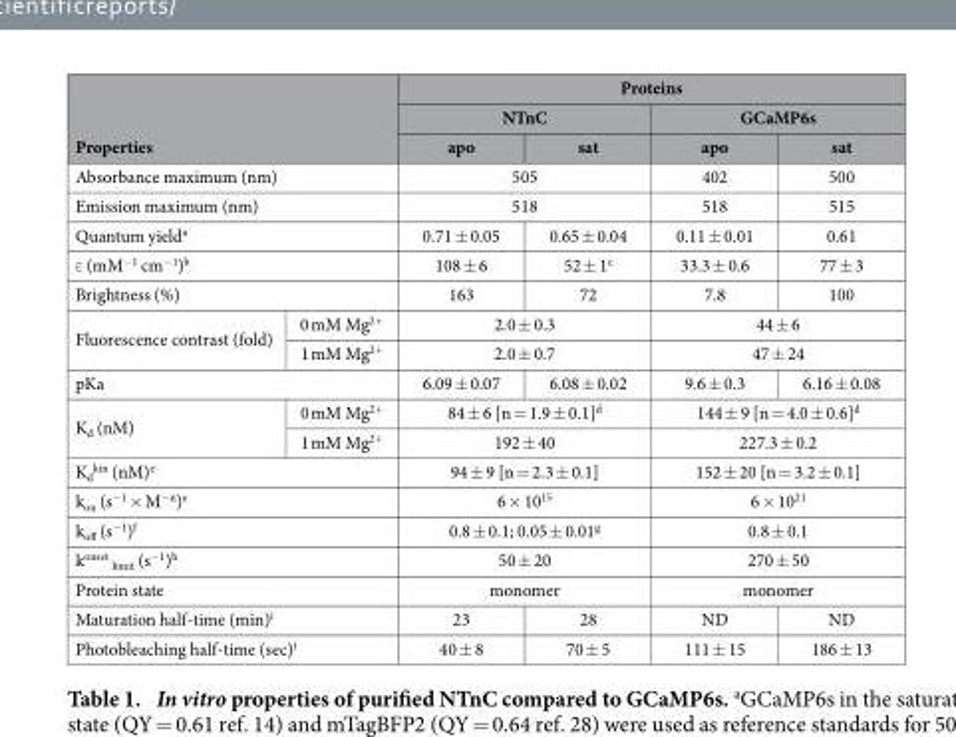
<table><thead><tr><td rowspan="2"></td><td rowspan="2"></td><td colspan="4">Proteins</td></tr><tr><td colspan="2">NTnC</td><td colspan="2">GCaMP6s</td></tr><tr><td colspan="2">Properties</td><td>apo</td><td>sat</td><td>apo</td><td>sat</td></tr></thead><tbody><tr><td colspan="2">Absorbance maximum (nm)</td><td colspan="2">505</td><td>402</td><td>500</td></tr><tr><td colspan="2">Emission maximum (nm)</td><td colspan="2">518</td><td>518</td><td>515</td></tr><tr><td colspan="2">Quantum yield<sup>a</sup></td><td>0.71 ± 0.05</td><td>0.65 ± 0.04</td><td>0.11 ± 0.01</td><td>0.61</td></tr><tr><td colspan="2">ε (mM<sup>−1</sup> cm<sup>−1</sup>)<sup>b</sup></td><td>108 ± 6</td><td>52 ± 1<sup>c</sup></td><td>33.3 ± 0.6</td><td>77 ± 3</td></tr><tr><td colspan="2">Brightness (%)</td><td>163</td><td>72</td><td>7.8</td><td>100</td></tr><tr><td rowspan="2">Fluorescence contrast (fold)</td><td>0 mM Mg<sup>2+</sup></td><td colspan="2">2.0 ± 0.3</td><td colspan="2">44 ± 6</td></tr><tr><td>1 mM Mg<sup>2+</sup></td><td colspan="2">2.0 ± 0.7</td><td colspan="2">47 ± 24</td></tr><tr><td colspan="2">pKa</td><td>6.09 ± 0.07</td><td>6.08 ± 0.02</td><td>9.6 ± 0.3</td><td>6.16 ± 0.08</td></tr><tr><td rowspan="2">K<sub>d</sub> (nM)</td><td>0 mM Mg<sup>2+</sup></td><td colspan="2">84 ± 6 [n = 1.9 ± 0.1]<sup>d</sup></td><td colspan="2">144 ± 9 [n = 4.0 ± 0.6]<sup>d</sup></td></tr><tr><td>1 mM Mg<sup>2+</sup></td><td colspan="2">192 ± 40</td><td colspan="2">227.3 ± 0.2</td></tr><tr><td colspan="2">K<sub>d</sub> <sup>kin</sup> (nM)<sup>e</sup></td><td colspan="2">94 ± 9 [n = 2.3 ± 0.1]</td><td colspan="2">152 ± 20 [n = 3.2 ± 0.1]</td></tr><tr><td colspan="2">k<sub>on</sub> (s<sup>−1</sup> × M<sup>−n</sup>)<sup>e</sup></td><td colspan="2">6 × 10<sup>15</sup></td><td colspan="2">6 × 10<sup>21</sup></td></tr><tr><td colspan="2">k<sub>off</sub> (s<sup>−1</sup>)<sup>f</sup></td><td colspan="2">0.8 ± 0.1; 0.05 ± 0.01<sup>g</sup></td><td colspan="2">0.8 ± 0.1</td></tr><tr><td colspan="2">k<sup>onset</sup> <sub>limit</sub> (s<sup>−1</sup>)<sup>h</sup></td><td colspan="2">50 ± 20</td><td colspan="2">270 ± 50</td></tr><tr><td colspan="2">Protein state</td><td colspan="2">monomer</td><td colspan="2">monomer</td></tr><tr><td colspan="2">Maturation half-time (min)<sup>i</sup></td><td>23</td><td>28</td><td>ND</td><td>ND</td></tr><tr><td colspan="2">Photobleaching half-time (sec)<sup>j</sup></td><td>40 ± 8</td><td>70 ± 5</td><td>111 ± 15</td><td>186 ± 13</td></tr></tbody></table>